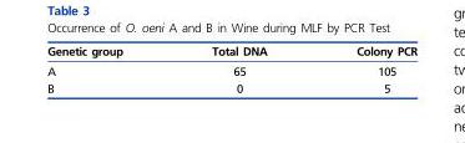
<table><thead><tr><td>Genetic group</td><td>Total DNA</td><td>Colony PCR</td></tr></thead><tbody><tr><td>A</td><td>65</td><td>105</td></tr><tr><td>B</td><td>0</td><td>5</td></tr></tbody></table>